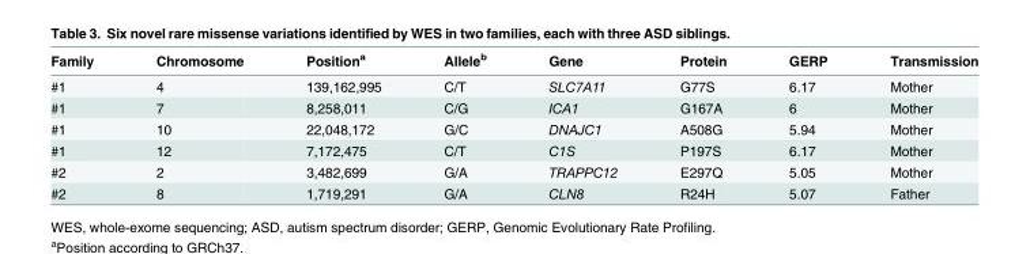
<table><thead><tr><td>Family</td><td>Chromosome</td><td>Position<sup>a</sup></td><td>Allele<sup>b</sup></td><td>Gene</td><td>Protein</td><td>GERP</td><td>Transmission</td></tr></thead><tbody><tr><td>#1</td><td>4</td><td>139,162,995</td><td>C/T</td><td>SLC7A11</td><td>G77S</td><td>6.17</td><td>Mother</td></tr><tr><td>#1</td><td>7</td><td>8,258,011</td><td>C/G</td><td>ICA1</td><td>G167A</td><td>6</td><td>Mother</td></tr><tr><td>#1</td><td>10</td><td>22,048,172</td><td>G/C</td><td>DNAJC1</td><td>A508G</td><td>5.94</td><td>Mother</td></tr><tr><td>#1</td><td>12</td><td>7,172,475</td><td>C/T</td><td>C1S</td><td>P197S</td><td>6.17</td><td>Mother</td></tr><tr><td>#2</td><td>2</td><td>3,482,699</td><td>G/A</td><td>TRAPPC12</td><td>E297Q</td><td>5.05</td><td>Mother</td></tr><tr><td>#2</td><td>8</td><td>1,719,291</td><td>G/A</td><td>CLN8</td><td>R24H</td><td>5.07</td><td>Father</td></tr></tbody></table>